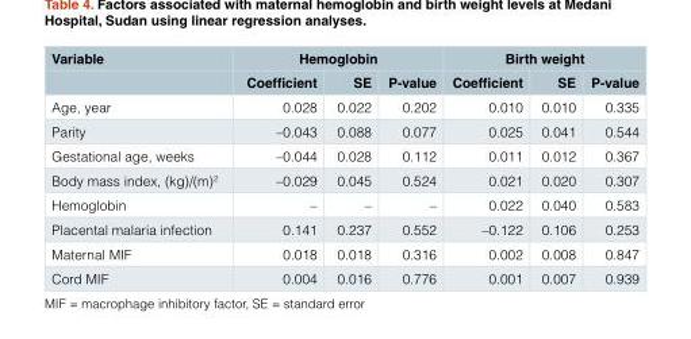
<table><thead><tr><td rowspan="2">Variable</td><td colspan="3">Hemoglobin</td><td colspan="3">Birth weight</td></tr><tr><td>Coefficient</td><td>SE</td><td>P-value</td><td>Coefficient</td><td>SE</td><td>P-value</td></tr></thead><tbody><tr><td>Age, year</td><td>0.028</td><td>0.022</td><td>0.202</td><td>0.010</td><td>0.010</td><td>0.335</td></tr><tr><td>Parity</td><td>–0.043</td><td>0.088</td><td>0.077</td><td>0.025</td><td>0.041</td><td>0.544</td></tr><tr><td>Gestational age, weeks</td><td>–0.044</td><td>0.028</td><td>0.112</td><td>0.011</td><td>0.012</td><td>0.367</td></tr><tr><td>Body mass index, (kg)/(m)<sup>2</sup></td><td>–0.029</td><td>0.045</td><td>0.524</td><td>0.021</td><td>0.020</td><td>0.307</td></tr><tr><td>Hemoglobin</td><td>–</td><td>–</td><td>–</td><td>0.022</td><td>0.040</td><td>0.583</td></tr><tr><td>Placental malaria infection</td><td>0.141</td><td>0.237</td><td>0.552</td><td>–0.122</td><td>0.106</td><td>0.253</td></tr><tr><td>Maternal MIF</td><td>0.018</td><td>0.018</td><td>0.316</td><td>0.002</td><td>0.008</td><td>0.847</td></tr><tr><td>Cord MIF</td><td>0.004</td><td>0.016</td><td>0.776</td><td>0.001</td><td>0.007</td><td>0.939</td></tr></tbody></table>